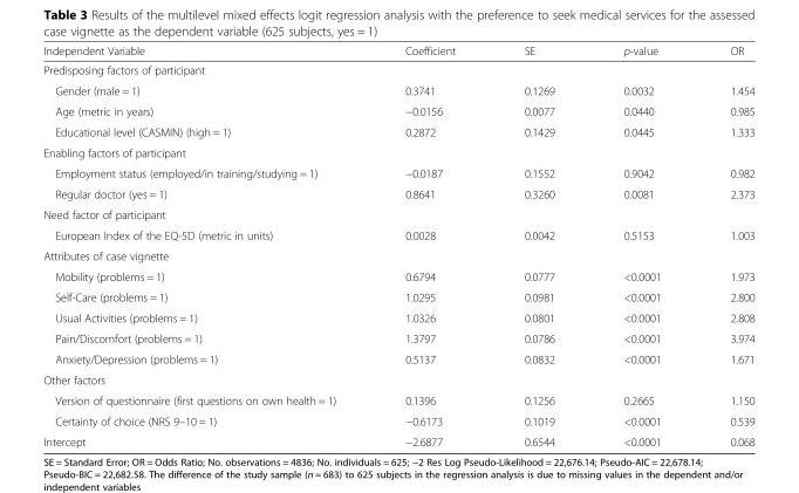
<table><thead><tr><td>Independent Variable</td><td>Coefficient</td><td>SE</td><td>p-value</td><td>OR</td></tr></thead><tbody><tr><td colspan="5">Predisposing factors of participant</td></tr><tr><td>Gender (male = 1)</td><td>0.3741</td><td>0.1269</td><td>0.0032</td><td>1.454</td></tr><tr><td>Age (metric in years)</td><td>−0.0156</td><td>0.0077</td><td>0.0440</td><td>0.985</td></tr><tr><td>Educational level (CASMIN) (high = 1)</td><td>0.2872</td><td>0.1429</td><td>0.0445</td><td>1.333</td></tr><tr><td colspan="5">Enabling factors of participant</td></tr><tr><td>Employment status (employed/in training/studying = 1)</td><td>−0.0187</td><td>0.1552</td><td>0.9042</td><td>0.982</td></tr><tr><td>Regular doctor (yes = 1)</td><td>0.8641</td><td>0.3260</td><td>0.0081</td><td>2.373</td></tr><tr><td colspan="5">Need factor of participant</td></tr><tr><td>European Index of the EQ-5D (metric in units)</td><td>0.0028</td><td>0.0042</td><td>0.5153</td><td>1.003</td></tr><tr><td colspan="5">Attributes of case vignette</td></tr><tr><td>Mobility (problems = 1)</td><td>0.6794</td><td>0.0777</td><td>&lt;0.0001</td><td>1.973</td></tr><tr><td>Self-Care (problems = 1)</td><td>1.0295</td><td>0.0981</td><td>&lt;0.0001</td><td>2.800</td></tr><tr><td>Usual Activities (problems = 1)</td><td>1.0326</td><td>0.0801</td><td>&lt;0.0001</td><td>2.808</td></tr><tr><td>Pain/Discomfort (problems = 1)</td><td>1.3797</td><td>0.0786</td><td>&lt;0.0001</td><td>3.974</td></tr><tr><td>Anxiety/Depression (problems = 1)</td><td>0.5137</td><td>0.0832</td><td>&lt;0.0001</td><td>1.671</td></tr><tr><td colspan="5">Other factors</td></tr><tr><td>Version of questionnaire (first questions on own health = 1)</td><td>0.1396</td><td>0.1256</td><td>0.2665</td><td>1.150</td></tr><tr><td>Certainty of choice (NRS 9–10 = 1)</td><td>−0.6173</td><td>0.1019</td><td>&lt;0.0001</td><td>0.539</td></tr><tr><td>Intercept</td><td>−2.6877</td><td>0.6544</td><td>&lt;0.0001</td><td>0.068</td></tr></tbody></table>